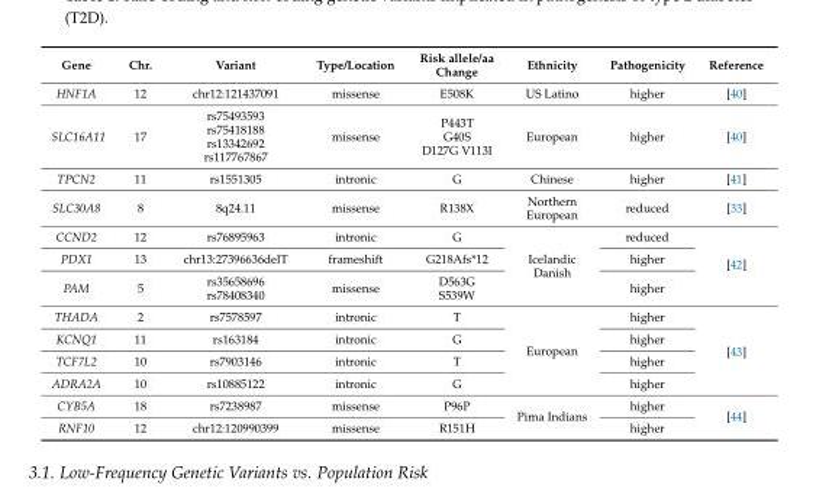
<table><thead><tr><td>Gene</td><td>Chr.</td><td>Variant</td><td>Type/Location</td><td>Risk allele/aa Change</td><td>Ethnicity</td><td>Pathogenicity</td><td>Reference</td></tr></thead><tbody><tr><td>HNF1A</td><td>12</td><td>chr12:121437091</td><td>missense</td><td>E508K</td><td>US Latino</td><td>higher</td><td>[40]</td></tr><tr><td>SLC16A11</td><td>17</td><td>rs75493593 rs75418188 rs13342692 rs117767867</td><td>missense</td><td>P443T G40S D127G V113I</td><td>European</td><td>higher</td><td>[40]</td></tr><tr><td>TPCN2</td><td>11</td><td>rs1551305</td><td>intronic</td><td>G</td><td>Chinese</td><td>higher</td><td>[41]</td></tr><tr><td>SLC30A8</td><td>8</td><td>8q24.11</td><td>missense</td><td>R138X</td><td>Northern European</td><td>reduced</td><td>[33]</td></tr><tr><td>CCND2</td><td>12</td><td>rs76895963</td><td>intronic</td><td>G</td><td rowspan="3">Icelandic Danish</td><td>reduced</td><td rowspan="3">[42]</td></tr><tr><td>PDX1</td><td>13</td><td>chr13:27396636delT</td><td>frameshift</td><td>G218Afs*12</td><td>higher</td></tr><tr><td>PAM</td><td>5</td><td>rs35658696 rs78408340</td><td>missense</td><td>D563G S539W</td><td>higher</td></tr><tr><td>THADA</td><td>2</td><td>rs7578597</td><td>intronic</td><td>T</td><td rowspan="4">European</td><td>higher</td><td rowspan="4">[43]</td></tr><tr><td>KCNQ1</td><td>11</td><td>rs163184</td><td>intronic</td><td>G</td><td>higher</td></tr><tr><td>TCF7L2</td><td>10</td><td>rs7903146</td><td>intronic</td><td>T</td><td>higher</td></tr><tr><td>ADRA2A</td><td>10</td><td>rs10885122</td><td>intronic</td><td>G</td><td>higher</td></tr><tr><td>CYB5A</td><td>18</td><td>rs7238987</td><td>missense</td><td>P96P</td><td rowspan="2">Pima Indians</td><td>higher</td><td rowspan="2">[44]</td></tr><tr><td>RNF10</td><td>12</td><td>chr12:120990399</td><td>missense</td><td>R151H</td><td>higher</td></tr></tbody></table>